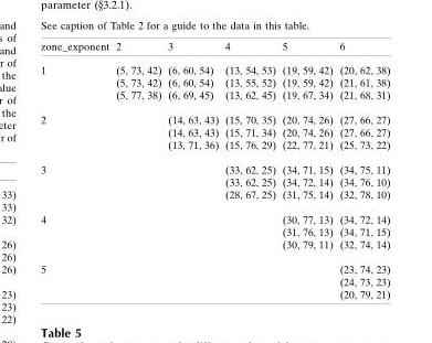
<table><thead><tr><td>zone_exponent</td><td>2</td><td>3</td><td>4</td><td>5</td><td>6</td></tr></thead><tbody><tr><td rowspan="3">1</td><td>(5, 73, 42)</td><td>(6, 60, 54)</td><td>(13, 54, 53)</td><td>(19, 59, 42)</td><td>(20, 62, 38)</td></tr><tr><td>(5, 73, 42)</td><td>(6, 60, 54)</td><td>(13, 55, 52)</td><td>(19, 59, 42)</td><td>(21, 61, 38)</td></tr><tr><td>(5, 77, 38)</td><td>(6, 69, 45)</td><td>(13, 62, 45)</td><td>(19, 67, 34)</td><td>(21, 68, 31)</td></tr><tr><td rowspan="3">2</td><td rowspan="3"></td><td>(14, 63, 43)</td><td>(15, 70, 35)</td><td>(20, 74, 26)</td><td>(27, 66, 27)</td></tr><tr><td>(14, 63, 43)</td><td>(15, 71, 34)</td><td>(20, 74, 26)</td><td>(27, 66, 27)</td></tr><tr><td>(13, 71, 36)</td><td>(15, 76, 29)</td><td>(22, 77, 21)</td><td>(25, 73, 22)</td></tr><tr><td rowspan="3">3</td><td rowspan="3"></td><td rowspan="3"></td><td>(33, 62, 25)</td><td>(34, 71, 15)</td><td>(34, 75, 11)</td></tr><tr><td>(33, 62, 25)</td><td>(34, 72, 14)</td><td>(34, 76, 10)</td></tr><tr><td>(28, 67, 25)</td><td>(31, 75, 14)</td><td>(32, 78, 10)</td></tr><tr><td rowspan="3">4</td><td rowspan="3"></td><td rowspan="3"></td><td rowspan="3"></td><td>(30, 77, 13)</td><td>(34, 72, 14)</td></tr><tr><td>(31, 76, 13)</td><td>(34, 71, 15)</td></tr><tr><td>(30, 79, 11)</td><td>(32, 74, 14)</td></tr><tr><td rowspan="3">5</td><td rowspan="3"></td><td rowspan="3"></td><td rowspan="3"></td><td rowspan="3"></td><td>(23, 74, 23)</td></tr><tr><td>(24, 73, 23)</td></tr><tr><td>(20, 79, 21)</td></tr></tbody></table>